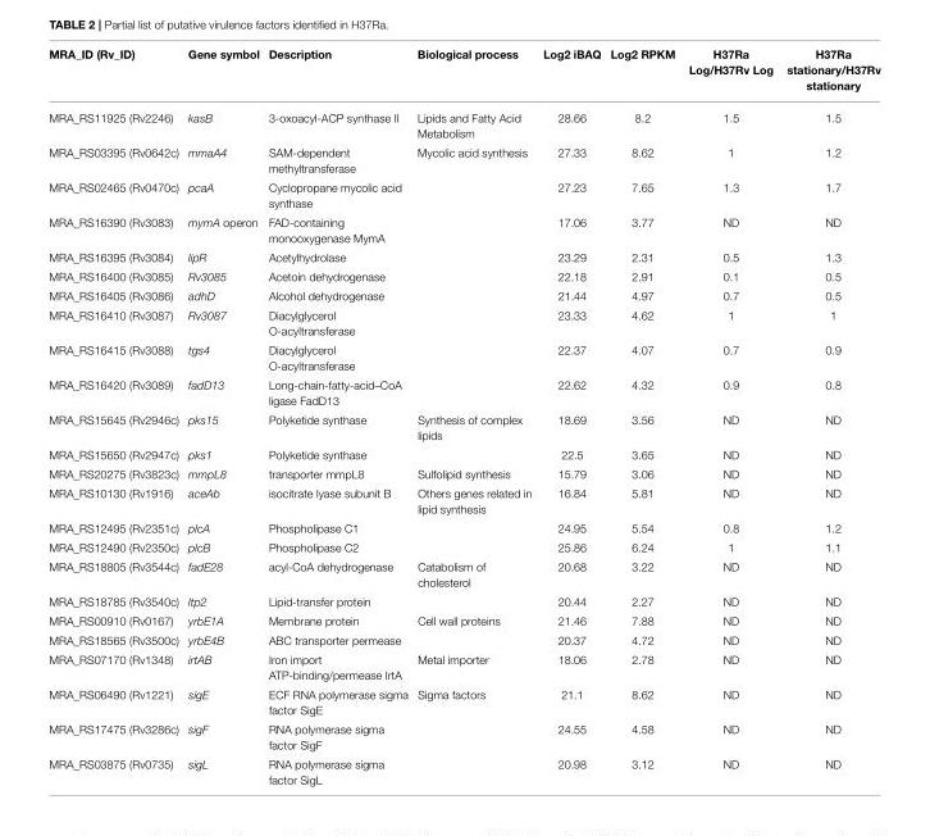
<table><thead><tr><td>MRA_ID (Rv_ID)</td><td>Gene symbol</td><td>Description</td><td>Biological process</td><td>Log2 iBAQ</td><td>Log2 RPKM</td><td>H37Ra Log/H37Rv Log</td><td>H37Ra stationary/H37Rv stationary</td></tr></thead><tbody><tr><td>MRA_RS11925 (Rv2246)</td><td>kasB</td><td>3-oxoacyl-ACP synthase II</td><td>Lipids and Fatty Acid Metabolism</td><td>28.66</td><td>8.2</td><td>1.5</td><td>1.5</td></tr><tr><td>MRA_RS03395 (Rv0642c)</td><td>mmaA4</td><td>SAM-dependent methyltransferase</td><td>Mycolic acid synthesis</td><td>27.33</td><td>8.62</td><td>1</td><td>1.2</td></tr><tr><td>MRA_RS02465 (Rv0470c)</td><td>pcaA</td><td>Cyclopropane mycolic acid synthase</td><td></td><td>27.23</td><td>7.65</td><td>1.3</td><td>1.7</td></tr><tr><td>MRA_RS16390 (Rv3083)</td><td>mymA operon</td><td>FAD-containing monooxygenase MymA</td><td></td><td>17.06</td><td>3.77</td><td>ND</td><td>ND</td></tr><tr><td>MRA_RS16395 (Rv3084)</td><td>lipR</td><td>Acetylhydrolase</td><td></td><td>23.29</td><td>2.31</td><td>0.5</td><td>1.3</td></tr><tr><td>MRA_RS16400 (Rv3085)</td><td>Rv3085</td><td>Acetoin dehydrogenase</td><td></td><td>22.18</td><td>2.91</td><td>0.1</td><td>0.5</td></tr><tr><td>MRA_RS16405 (Rv3086)</td><td>adhD</td><td>Alcohol dehydrogenase</td><td></td><td>21.44</td><td>4.97</td><td>0.7</td><td>0.5</td></tr><tr><td>MRA_RS16410 (Rv3087)</td><td>Rv3087</td><td>Diacylglycerol O-acyltransferase</td><td></td><td>23.33</td><td>4.62</td><td>1</td><td>1</td></tr><tr><td>MRA_RS16415 (Rv3088)</td><td>tgs4</td><td>Diacylglycerol O-acyltransferase</td><td></td><td>22.37</td><td>4.07</td><td>0.7</td><td>0.9</td></tr><tr><td>MRA_RS16420 (Rv3089)</td><td>fadD13</td><td>Long-chain-fatty-acid–CoA ligase FadD13</td><td></td><td>22.62</td><td>4.32</td><td>0.9</td><td>0.8</td></tr><tr><td>MRA_RS15645 (Rv2946c)</td><td>pks15</td><td>Polyketide synthase</td><td>Synthesis of complex lipids</td><td>18.69</td><td>3.56</td><td>ND</td><td>ND</td></tr><tr><td>MRA_RS15650 (Rv2947c)</td><td>pks1</td><td>Polyketide synthase</td><td></td><td>22.5</td><td>3.65</td><td>ND</td><td>ND</td></tr><tr><td>MRA_RS20275 (Rv3823c)</td><td>mmpL8</td><td>transporter mmpL8</td><td>Sulfolipid synthesis</td><td>15.79</td><td>3.06</td><td>ND</td><td>ND</td></tr><tr><td>MRA_RS10130 (Rv1916)</td><td>aceAb</td><td>isocitrate lyase subunit B</td><td>Others genes related in lipid synthesis</td><td>16.84</td><td>5.81</td><td>ND</td><td>ND</td></tr><tr><td>MRA_RS12495 (Rv2351c)</td><td>plcA</td><td>Phospholipase C1</td><td></td><td>24.95</td><td>5.54</td><td>0.8</td><td>1.2</td></tr><tr><td>MRA_RS12490 (Rv2350c)</td><td>plcB</td><td>Phospholipase C2</td><td></td><td>25.86</td><td>6.24</td><td>1</td><td>1.1</td></tr><tr><td>MRA_RS18805 (Rv3544c)</td><td>fadE28</td><td>acyl-CoA dehydrogenase</td><td>Catabolism of cholesterol</td><td>20.68</td><td>3.22</td><td>ND</td><td>ND</td></tr><tr><td>MRA_RS18785 (Rv3540c)</td><td>ltp2</td><td>Lipid-transfer protein</td><td></td><td>20.44</td><td>2.27</td><td>ND</td><td>ND</td></tr><tr><td>MRA_RS00910 (Rv0167)</td><td>yrbE1A</td><td>Membrane protein</td><td>Cell wall proteins</td><td>21.46</td><td>7.88</td><td>ND</td><td>ND</td></tr><tr><td>MRA_RS18565 (Rv3500c)</td><td>yrbE4B</td><td>ABC transporter permease</td><td></td><td>20.37</td><td>4.72</td><td>ND</td><td>ND</td></tr><tr><td>MRA_RS07170 (Rv1348)</td><td>irtAB</td><td>Iron import ATP-binding/permease IrtA</td><td>Metal importer</td><td>18.06</td><td>2.78</td><td>ND</td><td>ND</td></tr><tr><td>MRA_RS06490 (Rv1221)</td><td>sigE</td><td>ECF RNA polymerase sigma factor SigE</td><td>Sigma factors</td><td>21.1</td><td>8.62</td><td>ND</td><td>ND</td></tr><tr><td>MRA_RS17475 (Rv3286c)</td><td>sigF</td><td>RNA polymerase sigma factor SigF</td><td></td><td>24.55</td><td>4.58</td><td>ND</td><td>ND</td></tr><tr><td>MRA_RS03875 (Rv0735)</td><td>sigL</td><td>RNA polymerase sigma factor SigL</td><td></td><td>20.98</td><td>3.12</td><td>ND</td><td>ND</td></tr></tbody></table>